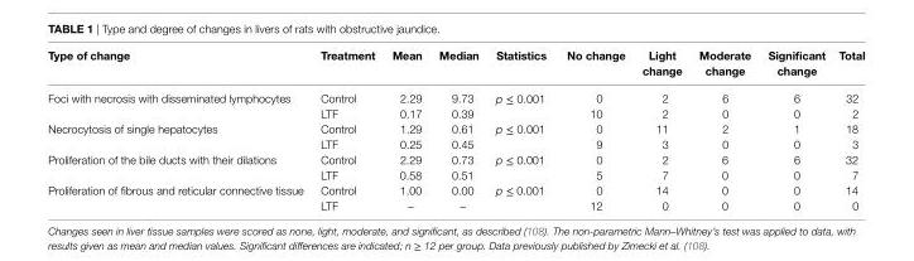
<table><thead><tr><td>Type of change</td><td>Treatment</td><td>Mean</td><td>Median</td><td>Statistics</td><td>No change</td><td>Light change</td><td>Moderate change</td><td>Significant change</td><td>Total</td></tr></thead><tbody><tr><td rowspan="2">Foci with necrosis with disseminated lymphocytes</td><td>Control</td><td>2.29</td><td>9.73</td><td rowspan="2">p ≤ 0.001</td><td>0</td><td>2</td><td>6</td><td>6</td><td>32</td></tr><tr><td>LTF</td><td>0.17</td><td>0.39</td><td>10</td><td>2</td><td>0</td><td>0</td><td>2</td></tr><tr><td rowspan="2">Necrocytosis of single hepatocytes</td><td>Control</td><td>1.29</td><td>0.61</td><td rowspan="2">p ≤ 0.001</td><td>0</td><td>11</td><td>2</td><td>1</td><td>18</td></tr><tr><td>LTF</td><td>0.25</td><td>0.45</td><td>9</td><td>3</td><td>0</td><td>0</td><td>3</td></tr><tr><td rowspan="2">Proliferation of the bile ducts with their dilations</td><td>Control</td><td>2.29</td><td>0.73</td><td rowspan="2">p ≤ 0.001</td><td>0</td><td>2</td><td>6</td><td>6</td><td>32</td></tr><tr><td>LTF</td><td>0.58</td><td>0.51</td><td>5</td><td>7</td><td>0</td><td>0</td><td>7</td></tr><tr><td rowspan="2">Proliferation of fibrous and reticular connective tissue</td><td>Control</td><td>1.00</td><td>0.00</td><td rowspan="2">p ≤ 0.001</td><td>0</td><td>14</td><td>0</td><td>0</td><td>14</td></tr><tr><td>LTF</td><td>–</td><td>–</td><td>12</td><td>0</td><td>0</td><td>0</td><td>0</td></tr></tbody></table>